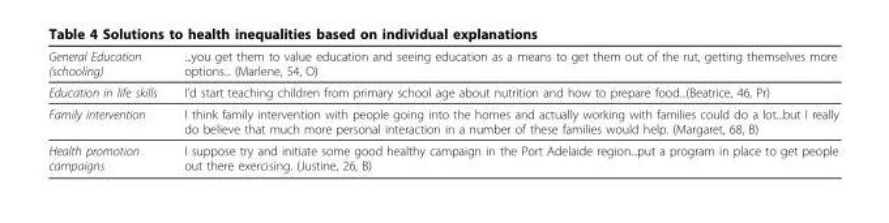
<table><thead><tr><td>General Education (schooling)</td><td>...you get them to value education and seeing education as a means to get them out of the rut, getting themselves more options... (Marlene, 54, O)</td></tr></thead><tbody><tr><td>Education in life skills</td><td>I’d start teaching children from primary school age about nutrition and how to prepare food...(Beatrice, 46, Pr)</td></tr><tr><td>Family intervention</td><td>I think family intervention with people going into the homes and actually working with families could do a lot...but I really do believe that much more personal interaction in a number of these families would help. (Margaret, 68, B)</td></tr><tr><td>Health promotion campaigns</td><td>I suppose try and initiate some good healthy campaign in the Port Adelaide region...put a program in place to get people out there exercising. (Justine, 26, B)</td></tr></tbody></table>